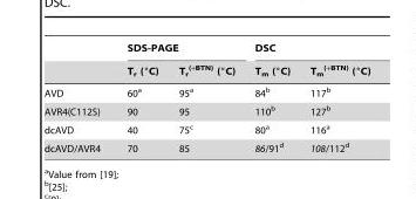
<table><thead><tr><td rowspan="2"></td><td colspan="2">SDS-PAGE</td><td colspan="2">DSC</td></tr><tr><td>T<sub>r</sub> (°C)</td><td>T<sub>r</sub> <sup>(+BTN)</sup> (°C)</td><td>T<sub>m</sub> (°C)</td><td>T<sub>m</sub> <sup>(+BTN)</sup> (°C)</td></tr></thead><tbody><tr><td>AVD</td><td>60<sup>a</sup></td><td>95<sup>a</sup></td><td>84<sup>b</sup></td><td>117<sup>b</sup></td></tr><tr><td>AVR4(C112S)</td><td>90</td><td>95</td><td>110<sup>b</sup></td><td>127<sup>b</sup></td></tr><tr><td>dcAVD</td><td>40</td><td>75<sup>c</sup></td><td>80<sup>a</sup></td><td>116<sup>a</sup></td></tr><tr><td>dcAVD/AVR4</td><td>70</td><td>85</td><td>86/91<sup>d</sup></td><td>108/112<sup>d</sup></td></tr></tbody></table>